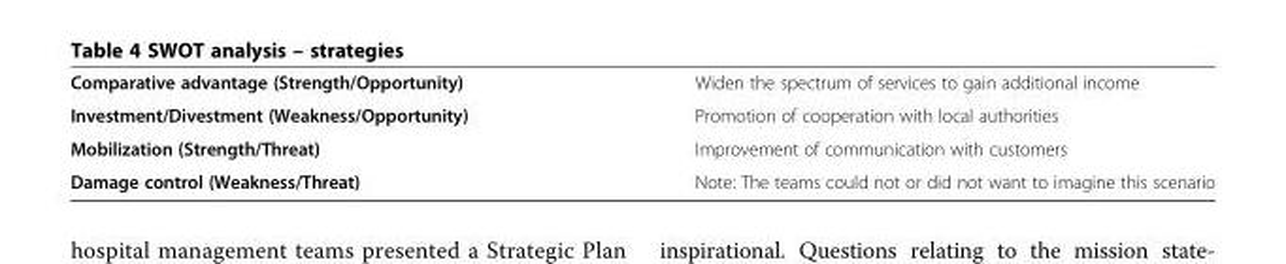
<table><tbody><tr><td>Comparative advantage (Strength/Opportunity)</td><td>Widen the spectrum of services to gain additional income</td></tr><tr><td>Investment/Divestment (Weakness/Opportunity)</td><td>Promotion of cooperation with local authorities</td></tr><tr><td>Mobilization (Strength/Threat)</td><td>Improvement of communication with customers</td></tr><tr><td>Damage control (Weakness/Threat)</td><td>Note: The teams could not or did not want to imagine this scenario</td></tr></tbody></table>